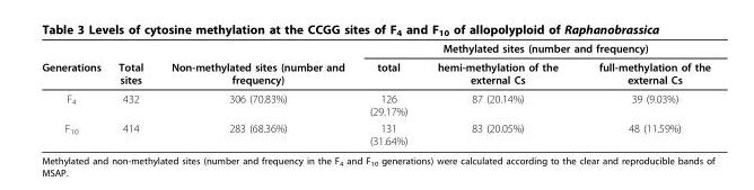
<table><thead><tr><td rowspan="2">Generations</td><td rowspan="2">Total sites</td><td rowspan="2">Non-methylated sites (number and frequency)</td><td colspan="3">Methylated sites (number and frequency)</td></tr><tr><td>total</td><td>hemi-methylation of the external Cs</td><td>full-methylation of the external Cs</td></tr></thead><tbody><tr><td>F<sub>4</sub></td><td>432</td><td>306 (70.83%)</td><td>126 (29.17%)</td><td>87 (20.14%)</td><td>39 (9.03%)</td></tr><tr><td>F<sub>10</sub></td><td>414</td><td>283 (68.36%)</td><td>131 (31.64%)</td><td>83 (20.05%)</td><td>48 (11.59%)</td></tr></tbody></table>